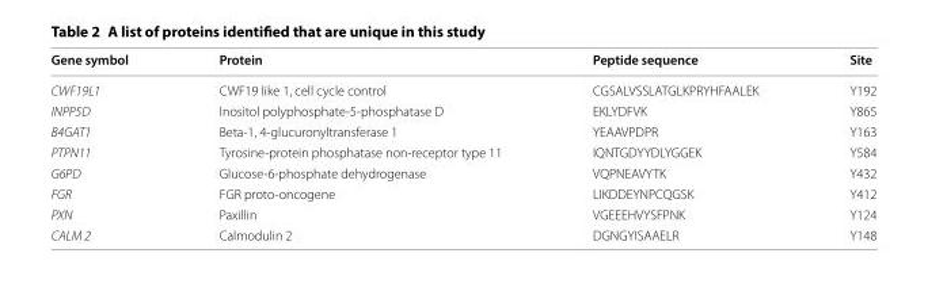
<table><thead><tr><td>Gene symbol</td><td>Protein</td><td>Peptide sequence</td><td>Site</td></tr></thead><tbody><tr><td>CWF19L1</td><td>CWF19 like 1, cell cycle control</td><td>CGSALVSSLATGLKPRYHFAALEK</td><td>Y192</td></tr><tr><td>INPP5D</td><td>Inositol polyphosphate-5-phosphatase D</td><td>EKLYDFVK</td><td>Y865</td></tr><tr><td>B4GAT1</td><td>Beta-1, 4-glucuronyltransferase 1</td><td>YEAAVPDPR</td><td>Y163</td></tr><tr><td>PTPN11</td><td>Tyrosine-protein phosphatase non-receptor type 11</td><td>IQNTGDYYDLYGGEK</td><td>Y584</td></tr><tr><td>G6PD</td><td>Glucose-6-phosphate dehydrogenase</td><td>VQPNEAVYTK</td><td>Y432</td></tr><tr><td>FGR</td><td>FGR proto-oncogene</td><td>LIKDDEYNPCQGSK</td><td>Y412</td></tr><tr><td>PXN</td><td>Paxillin</td><td>VGEEEHVYSFPNK</td><td>Y124</td></tr><tr><td>CALM 2</td><td>Calmodulin 2</td><td>DGNGYISAAELR</td><td>Y148</td></tr></tbody></table>